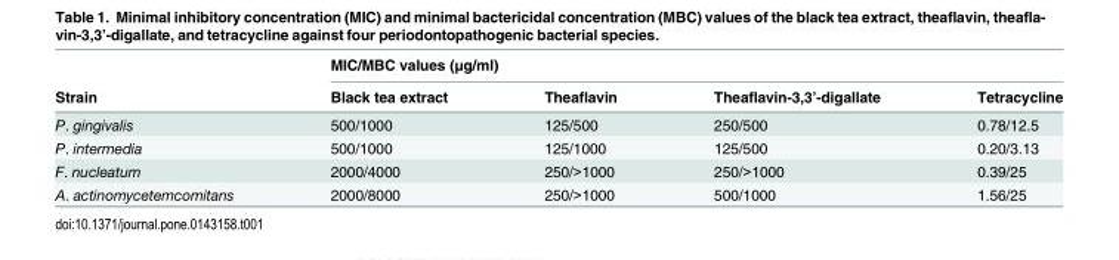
<table><thead><tr><td rowspan="2">Strain</td><td colspan="4">MIC/MBC values (μg/ml)</td></tr><tr><td>Black tea extract</td><td>Theaflavin</td><td>Theaflavin-3,3’-digallate</td><td>Tetracycline</td></tr></thead><tbody><tr><td>P. gingivalis</td><td>500/1000</td><td>125/500</td><td>250/500</td><td>0.78/12.5</td></tr><tr><td>P. intermedia</td><td>500/1000</td><td>125/1000</td><td>125/500</td><td>0.20/3.13</td></tr><tr><td>F. nucleatum</td><td>2000/4000</td><td>250/&gt;1000</td><td>250/&gt;1000</td><td>0.39/25</td></tr><tr><td>A. actinomycetemcomitans</td><td>2000/8000</td><td>250/&gt;1000</td><td>500/1000</td><td>1.56/25</td></tr></tbody></table>